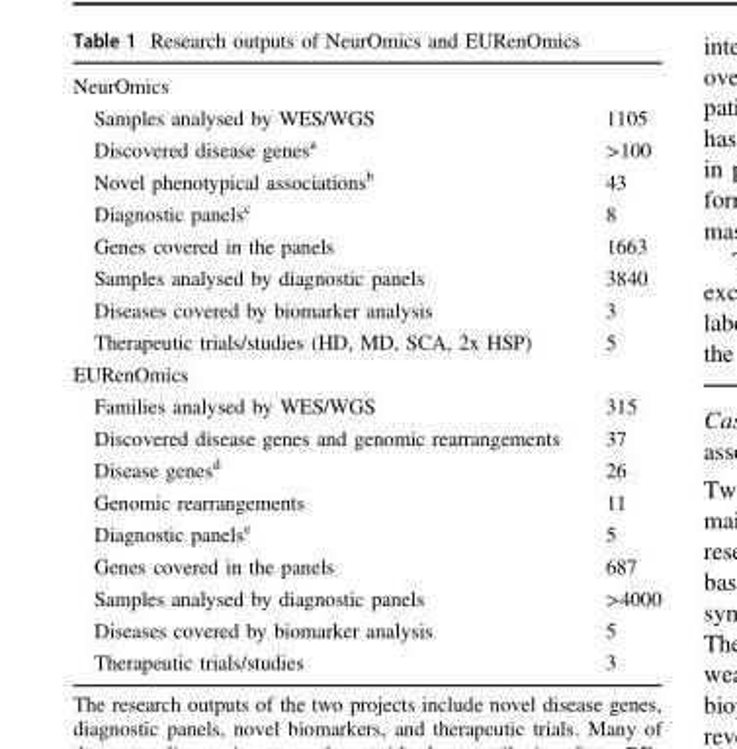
<table><tbody><tr><td colspan="2">NeurOmics</td></tr><tr><td>Samples analysed by WES/WGS</td><td>1105</td></tr><tr><td>Discovered disease genes<sup>a</sup></td><td>&gt;100</td></tr><tr><td>Novel phenotypical associations<sup>b</sup></td><td>43</td></tr><tr><td>Diagnostic panels<sup>c</sup></td><td>8</td></tr><tr><td>Genes covered in the panels</td><td>1663</td></tr><tr><td>Samples analysed by diagnostic panels</td><td>3840</td></tr><tr><td>Diseases covered by biomarker analysis</td><td>3</td></tr><tr><td>Therapeutic trials/studies (HD, MD, SCA, 2x HSP)</td><td>5</td></tr><tr><td colspan="2">EURenOmics</td></tr><tr><td>Families analysed by WES/WGS</td><td>315</td></tr><tr><td>Discovered disease genes and genomic rearrangements</td><td>37</td></tr><tr><td>Disease genes<sup>d</sup></td><td>26</td></tr><tr><td>Genomic rearrangements</td><td>11</td></tr><tr><td>Diagnostic panels<sup>e</sup></td><td>5</td></tr><tr><td>Genes covered in the panels</td><td>687</td></tr><tr><td>Samples analysed by diagnostic panels</td><td>&gt;4000</td></tr><tr><td>Diseases covered by biomarker analysis</td><td>5</td></tr><tr><td>Therapeutic trials/studies</td><td>3</td></tr></tbody></table>